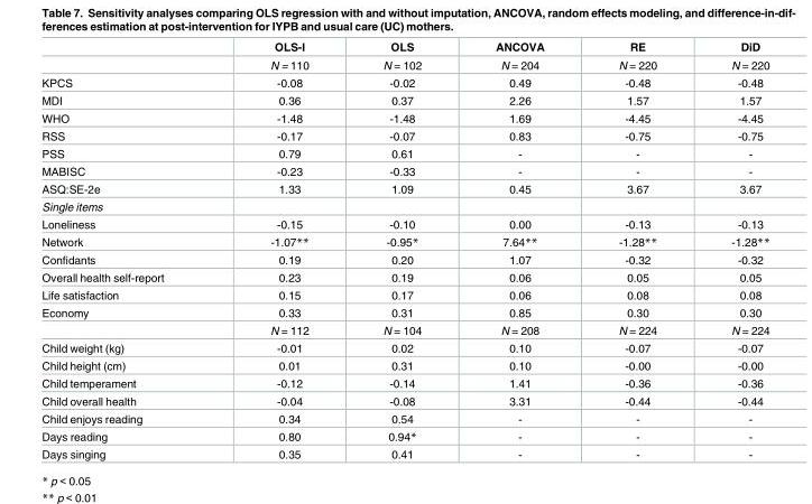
<table><thead><tr><td></td><td>OLS-I</td><td>OLS</td><td>ANCOVA</td><td>RE</td><td>DiD</td></tr></thead><tbody><tr><td></td><td>N = 110</td><td>N = 102</td><td>N = 204</td><td>N = 220</td><td>N = 220</td></tr><tr><td>KPCS</td><td>-0.08</td><td>-0.02</td><td>0.49</td><td>-0.48</td><td>-0.48</td></tr><tr><td>MDI</td><td>0.36</td><td>0.37</td><td>2.26</td><td>1.57</td><td>1.57</td></tr><tr><td>WHO</td><td>-1.48</td><td>-1.48</td><td>1.69</td><td>-4.45</td><td>-4.45</td></tr><tr><td>RSS</td><td>-0.17</td><td>-0.07</td><td>0.83</td><td>-0.75</td><td>-0.75</td></tr><tr><td>PSS</td><td>0.79</td><td>0.61</td><td>-</td><td>-</td><td>-</td></tr><tr><td>MABISC</td><td>-0.23</td><td>-0.33</td><td>-</td><td>-</td><td>-</td></tr><tr><td>ASQ:SE-2e</td><td>1.33</td><td>1.09</td><td>0.45</td><td>3.67</td><td>3.67</td></tr><tr><td colspan="6">Single items</td></tr><tr><td>Loneliness</td><td>-0.15</td><td>-0.10</td><td>0.00</td><td>-0.13</td><td>-0.13</td></tr><tr><td>Network</td><td>-1.07**</td><td>-0.95*</td><td>7.64**</td><td>-1.28**</td><td>-1.28**</td></tr><tr><td>Confidants</td><td>0.19</td><td>0.20</td><td>1.07</td><td>-0.32</td><td>-0.32</td></tr><tr><td>Overall health self-report</td><td>0.23</td><td>0.19</td><td>0.06</td><td>0.05</td><td>0.05</td></tr><tr><td>Life satisfaction</td><td>0.15</td><td>0.17</td><td>0.06</td><td>0.08</td><td>0.08</td></tr><tr><td rowspan="2">Economy</td><td>0.33</td><td>0.31</td><td>0.85</td><td>0.30</td><td>0.30</td></tr><tr><td>N = 112</td><td>N = 104</td><td>N = 208</td><td>N = 224</td><td>N = 224</td></tr><tr><td>Child weight (kg)</td><td>-0.01</td><td>0.02</td><td>0.10</td><td>-0.07</td><td>-0.07</td></tr><tr><td>Child height (cm)</td><td>0.01</td><td>0.31</td><td>0.10</td><td>-0.00</td><td>-0.00</td></tr><tr><td>Child temperament</td><td>-0.12</td><td>-0.14</td><td>1.41</td><td>-0.36</td><td>-0.36</td></tr><tr><td>Child overall health</td><td>-0.04</td><td>-0.08</td><td>3.31</td><td>-0.44</td><td>-0.44</td></tr><tr><td>Child enjoys reading</td><td>0.34</td><td>0.54</td><td>-</td><td>-</td><td>-</td></tr><tr><td>Days reading</td><td>0.80</td><td>0.94*</td><td>-</td><td>-</td><td>-</td></tr><tr><td>Days singing</td><td>0.35</td><td>0.41</td><td>-</td><td>-</td><td>-</td></tr></tbody></table>